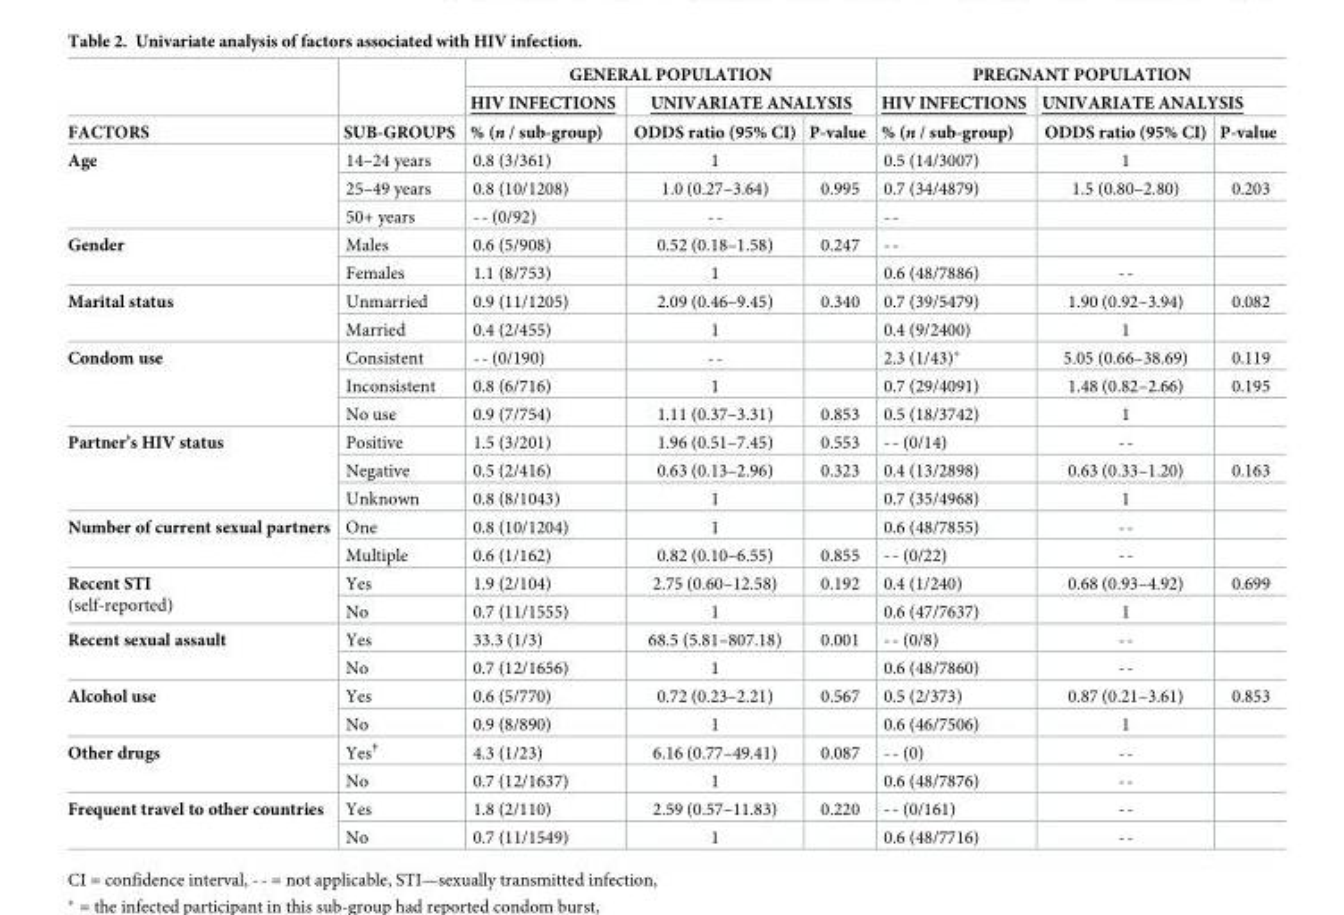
<table><thead><tr><td rowspan="3">FACTORS</td><td rowspan="3">SUB-GROUPS</td><td colspan="3">GENERAL POPULATION</td><td colspan="3">PREGNANT POPULATION</td></tr><tr><td rowspan="2">HIV INFECTIONS % (n / sub-group)</td><td colspan="2">UNIVARIATE ANALYSIS</td><td rowspan="2">HIV INFECTIONS % (n / sub-group)</td><td colspan="2">UNIVARIATE ANALYSIS</td></tr><tr><td>ODDS ratio (95% CI)</td><td>P-value</td><td>ODDS ratio (95% CI)</td><td>P-value</td></tr></thead><tbody><tr><td rowspan="3">Age</td><td>14–24 years</td><td>0.8 (3/361)</td><td>1</td><td></td><td>0.5 (14/3007)</td><td>1</td><td></td></tr><tr><td>25–49 years</td><td>0.8 (10/1208)</td><td>1.0 (0.27–3.64)</td><td>0.995</td><td>0.7 (34/4879)</td><td>1.5 (0.80–2.80)</td><td>0.203</td></tr><tr><td>50+ years</td><td>-- (0/92)</td><td>--</td><td></td><td>--</td><td></td><td></td></tr><tr><td rowspan="2">Gender</td><td>Males</td><td>0.6 (5/908)</td><td>0.52 (0.18–1.58)</td><td>0.247</td><td>--</td><td></td><td></td></tr><tr><td>Females</td><td>1.1 (8/753)</td><td>1</td><td></td><td>0.6 (48/7886)</td><td>--</td><td></td></tr><tr><td rowspan="2">Marital status</td><td>Unmarried</td><td>0.9 (11/1205)</td><td>2.09 (0.46–9.45)</td><td>0.340</td><td>0.7 (39/5479)</td><td>1.90 (0.92–3.94)</td><td>0.082</td></tr><tr><td>Married</td><td>0.4 (2/455)</td><td>1</td><td></td><td>0.4 (9/2400)</td><td>1</td><td></td></tr><tr><td rowspan="3">Condom use</td><td>Consistent</td><td>-- (0/190)</td><td>--</td><td></td><td>2.3 (1/43)*</td><td>5.05 (0.66–38.69)</td><td>0.119</td></tr><tr><td>Inconsistent</td><td>0.8 (6/716)</td><td>1</td><td></td><td>0.7 (29/4091)</td><td>1.48 (0.82–2.66)</td><td>0.195</td></tr><tr><td>No use</td><td>0.9 (7/754)</td><td>1.11 (0.37–3.31)</td><td>0.853</td><td>0.5 (18/3742)</td><td>1</td><td></td></tr><tr><td rowspan="3">Partner’s HIV status</td><td>Positive</td><td>1.5 (3/201)</td><td>1.96 (0.51–7.45)</td><td>0.553</td><td>-- (0/14)</td><td>--</td><td></td></tr><tr><td>Negative</td><td>0.5 (2/416)</td><td>0.63 (0.13–2.96)</td><td>0.323</td><td>0.4 (13/2898)</td><td>0.63 (0.33–1.20)</td><td>0.163</td></tr><tr><td>Unknown</td><td>0.8 (8/1043)</td><td>1</td><td></td><td>0.7 (35/4968)</td><td>1</td><td></td></tr><tr><td rowspan="2">Number of current sexual partners</td><td>One</td><td>0.8 (10/1204)</td><td>1</td><td></td><td>0.6 (48/7855)</td><td>--</td><td></td></tr><tr><td>Multiple</td><td>0.6 (1/162)</td><td>0.82 (0.10–6.55)</td><td>0.855</td><td>-- (0/22)</td><td>--</td><td></td></tr><tr><td rowspan="2">Recent STI (self-reported)</td><td>Yes</td><td>1.9 (2/104)</td><td>2.75 (0.60–12.58)</td><td>0.192</td><td>0.4 (1/240)</td><td>0.68 (0.93–4.92)</td><td>0.699</td></tr><tr><td>No</td><td>0.7 (11/1555)</td><td>1</td><td></td><td>0.6 (47/7637)</td><td>1</td><td></td></tr><tr><td rowspan="2">Recent sexual assault</td><td>Yes</td><td>33.3 (1/3)</td><td>68.5 (5.81–807.18)</td><td>0.001</td><td>-- (0/8)</td><td>--</td><td></td></tr><tr><td>No</td><td>0.7 (12/1656)</td><td>1</td><td></td><td>0.6 (48/7860)</td><td>--</td><td></td></tr><tr><td rowspan="2">Alcohol use</td><td>Yes</td><td>0.6 (5/770)</td><td>0.72 (0.23–2.21)</td><td>0.567</td><td>0.5 (2/373)</td><td>0.87 (0.21–3.61)</td><td>0.853</td></tr><tr><td>No</td><td>0.9 (8/890)</td><td>1</td><td></td><td>0.6 (46/7506)</td><td>1</td><td></td></tr><tr><td rowspan="2">Other drugs</td><td>Yes<sup>†</sup></td><td>4.3 (1/23)</td><td>6.16 (0.77–49.41)</td><td>0.087</td><td>-- (0)</td><td>--</td><td></td></tr><tr><td>No</td><td>0.7 (12/1637)</td><td>1</td><td></td><td>0.6 (48/7876)</td><td>--</td><td></td></tr><tr><td rowspan="2">Frequent travel to other countries</td><td>Yes</td><td>1.8 (2/110)</td><td>2.59 (0.57–11.83)</td><td>0.220</td><td>-- (0/161)</td><td>--</td><td></td></tr><tr><td>No</td><td>0.7 (11/1549)</td><td>1</td><td></td><td>0.6 (48/7716)</td><td>--</td><td></td></tr></tbody></table>